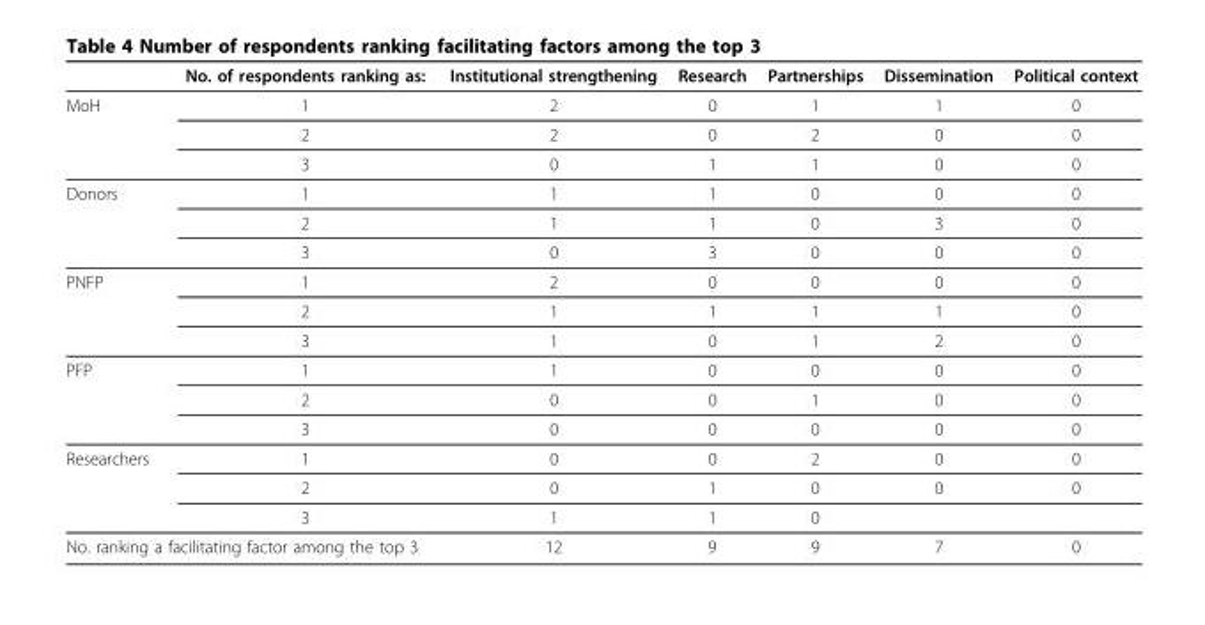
<table><thead><tr><td></td><td>No. of respondents ranking as:</td><td>Institutional strengthening</td><td>Research</td><td>Partnerships</td><td>Dissemination</td><td>Political context</td></tr></thead><tbody><tr><td rowspan="3">MoH</td><td>1</td><td>2</td><td>0</td><td>1</td><td>1</td><td>0</td></tr><tr><td>2</td><td>2</td><td>0</td><td>2</td><td>0</td><td>0</td></tr><tr><td>3</td><td>0</td><td>1</td><td>1</td><td>0</td><td>0</td></tr><tr><td rowspan="3">Donors</td><td>1</td><td>1</td><td>1</td><td>0</td><td>0</td><td>0</td></tr><tr><td>2</td><td>1</td><td>1</td><td>0</td><td>3</td><td>0</td></tr><tr><td>3</td><td>0</td><td>3</td><td>0</td><td>0</td><td>0</td></tr><tr><td rowspan="3">PNFP</td><td>1</td><td>2</td><td>0</td><td>0</td><td>0</td><td>0</td></tr><tr><td>2</td><td>1</td><td>1</td><td>1</td><td>1</td><td>0</td></tr><tr><td>3</td><td>1</td><td>0</td><td>1</td><td>2</td><td>0</td></tr><tr><td rowspan="3">PFP</td><td>1</td><td>1</td><td>0</td><td>0</td><td>0</td><td>0</td></tr><tr><td>2</td><td>0</td><td>0</td><td>1</td><td>0</td><td>0</td></tr><tr><td>3</td><td>0</td><td>0</td><td>0</td><td>0</td><td>0</td></tr><tr><td rowspan="3">Researchers</td><td>1</td><td>0</td><td>0</td><td>2</td><td>0</td><td>0</td></tr><tr><td>2</td><td>0</td><td>1</td><td>0</td><td>0</td><td>0</td></tr><tr><td>3</td><td>1</td><td>1</td><td>0</td><td></td><td></td></tr><tr><td colspan="2">No. ranking a facilitating factor among the top 3</td><td>12</td><td>9</td><td>9</td><td>7</td><td>0</td></tr></tbody></table>